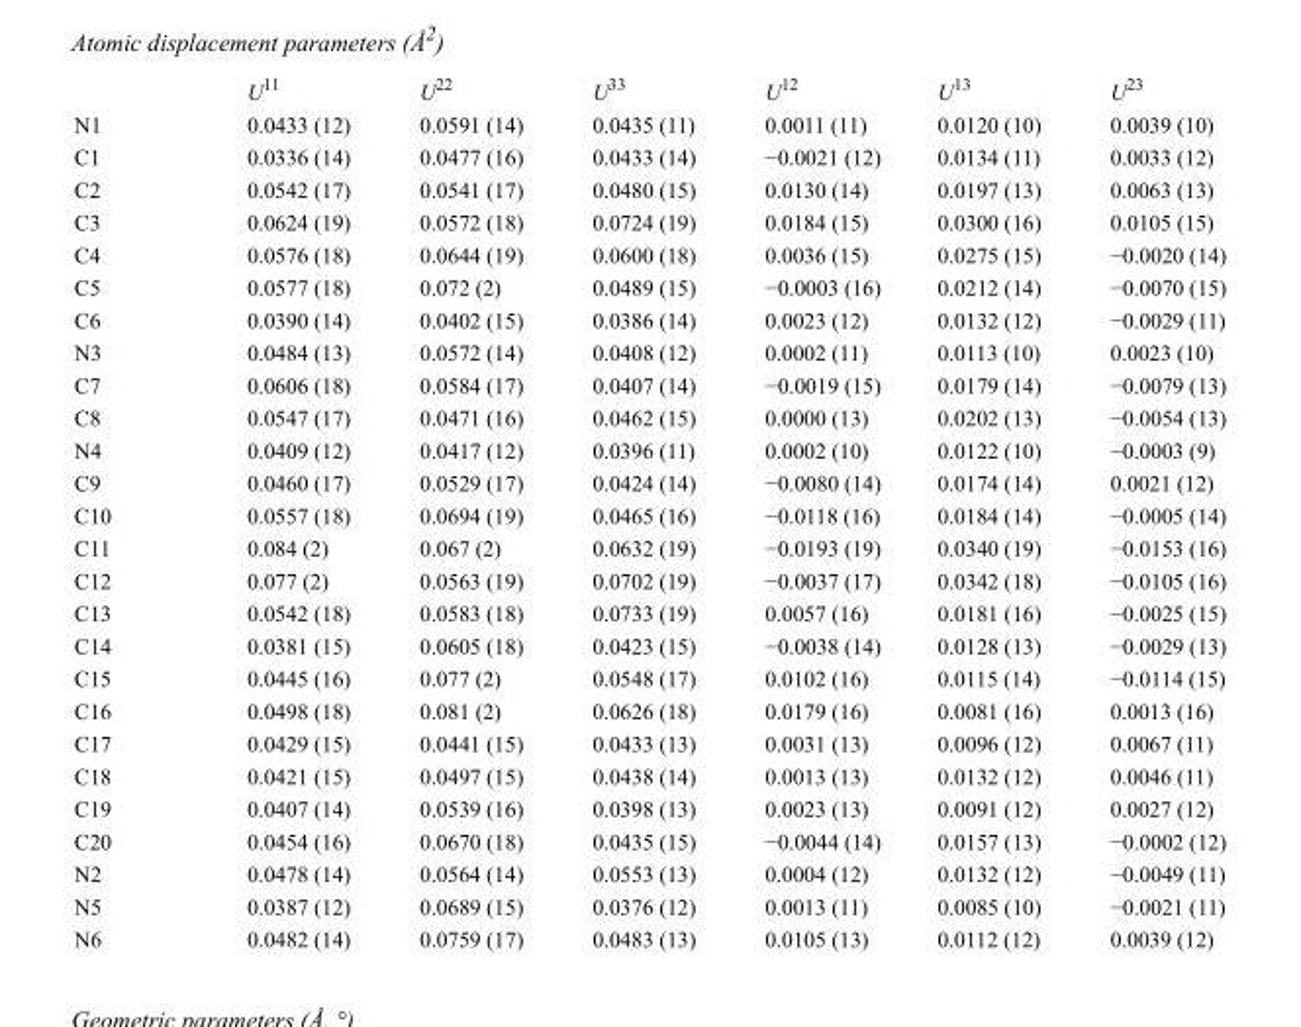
<table><thead><tr><td></td><td>U<sup>11</sup></td><td>U<sup>22</sup></td><td>U<sup>33</sup></td><td>U<sup>12</sup></td><td>U<sup>13</sup></td><td>U<sup>23</sup></td></tr></thead><tbody><tr><td>N1</td><td>0.0433 (12)</td><td>0.0591 (14)</td><td>0.0435 (11)</td><td>0.0011 (11)</td><td>0.0120 (10)</td><td>0.0039 (10)</td></tr><tr><td>C1</td><td>0.0336 (14)</td><td>0.0477 (16)</td><td>0.0433 (14)</td><td>−0.0021 (12)</td><td>0.0134 (11)</td><td>0.0033 (12)</td></tr><tr><td>C2</td><td>0.0542 (17)</td><td>0.0541 (17)</td><td>0.0480 (15)</td><td>0.0130 (14)</td><td>0.0197 (13)</td><td>0.0063 (13)</td></tr><tr><td>C3</td><td>0.0624 (19)</td><td>0.0572 (18)</td><td>0.0724 (19)</td><td>0.0184 (15)</td><td>0.0300 (16)</td><td>0.0105 (15)</td></tr><tr><td>C4</td><td>0.0576 (18)</td><td>0.0644 (19)</td><td>0.0600 (18)</td><td>0.0036 (15)</td><td>0.0275 (15)</td><td>−0.0020 (14)</td></tr><tr><td>C5</td><td>0.0577 (18)</td><td>0.072 (2)</td><td>0.0489 (15)</td><td>−0.0003 (16)</td><td>0.0212 (14)</td><td>−0.0070 (15)</td></tr><tr><td>C6</td><td>0.0390 (14)</td><td>0.0402 (15)</td><td>0.0386 (14)</td><td>0.0023 (12)</td><td>0.0132 (12)</td><td>−0.0029 (11)</td></tr><tr><td>N3</td><td>0.0484 (13)</td><td>0.0572 (14)</td><td>0.0408 (12)</td><td>0.0002 (11)</td><td>0.0113 (10)</td><td>0.0023 (10)</td></tr><tr><td>C7</td><td>0.0606 (18)</td><td>0.0584 (17)</td><td>0.0407 (14)</td><td>−0.0019 (15)</td><td>0.0179 (14)</td><td>−0.0079 (13)</td></tr><tr><td>C8</td><td>0.0547 (17)</td><td>0.0471 (16)</td><td>0.0462 (15)</td><td>0.0000 (13)</td><td>0.0202 (13)</td><td>−0.0054 (13)</td></tr><tr><td>N4</td><td>0.0409 (12)</td><td>0.0417 (12)</td><td>0.0396 (11)</td><td>0.0002 (10)</td><td>0.0122 (10)</td><td>−0.0003 (9)</td></tr><tr><td>C9</td><td>0.0460 (17)</td><td>0.0529 (17)</td><td>0.0424 (14)</td><td>−0.0080 (14)</td><td>0.0174 (14)</td><td>0.0021 (12)</td></tr><tr><td>C10</td><td>0.0557 (18)</td><td>0.0694 (19)</td><td>0.0465 (16)</td><td>−0.0118 (16)</td><td>0.0184 (14)</td><td>−0.0005 (14)</td></tr><tr><td>C11</td><td>0.084 (2)</td><td>0.067 (2)</td><td>0.0632 (19)</td><td>−0.0193 (19)</td><td>0.0340 (19)</td><td>−0.0153 (16)</td></tr><tr><td>C12</td><td>0.077 (2)</td><td>0.0563 (19)</td><td>0.0702 (19)</td><td>−0.0037 (17)</td><td>0.0342 (18)</td><td>−0.0105 (16)</td></tr><tr><td>C13</td><td>0.0542 (18)</td><td>0.0583 (18)</td><td>0.0733 (19)</td><td>0.0057 (16)</td><td>0.0181 (16)</td><td>−0.0025 (15)</td></tr><tr><td>C14</td><td>0.0381 (15)</td><td>0.0605 (18)</td><td>0.0423 (15)</td><td>−0.0038 (14)</td><td>0.0128 (13)</td><td>−0.0029 (13)</td></tr><tr><td>C15</td><td>0.0445 (16)</td><td>0.077 (2)</td><td>0.0548 (17)</td><td>0.0102 (16)</td><td>0.0115 (14)</td><td>−0.0114 (15)</td></tr><tr><td>C16</td><td>0.0498 (18)</td><td>0.081 (2)</td><td>0.0626 (18)</td><td>0.0179 (16)</td><td>0.0081 (16)</td><td>0.0013 (16)</td></tr><tr><td>C17</td><td>0.0429 (15)</td><td>0.0441 (15)</td><td>0.0433 (13)</td><td>0.0031 (13)</td><td>0.0096 (12)</td><td>0.0067 (11)</td></tr><tr><td>C18</td><td>0.0421 (15)</td><td>0.0497 (15)</td><td>0.0438 (14)</td><td>0.0013 (13)</td><td>0.0132 (12)</td><td>0.0046 (11)</td></tr><tr><td>C19</td><td>0.0407 (14)</td><td>0.0539 (16)</td><td>0.0398 (13)</td><td>0.0023 (13)</td><td>0.0091 (12)</td><td>0.0027 (12)</td></tr><tr><td>C20</td><td>0.0454 (16)</td><td>0.0670 (18)</td><td>0.0435 (15)</td><td>−0.0044 (14)</td><td>0.0157 (13)</td><td>−0.0002 (12)</td></tr><tr><td>N2</td><td>0.0478 (14)</td><td>0.0564 (14)</td><td>0.0553 (13)</td><td>0.0004 (12)</td><td>0.0132 (12)</td><td>−0.0049 (11)</td></tr><tr><td>N5</td><td>0.0387 (12)</td><td>0.0689 (15)</td><td>0.0376 (12)</td><td>0.0013 (11)</td><td>0.0085 (10)</td><td>−0.0021 (11)</td></tr><tr><td>N6</td><td>0.0482 (14)</td><td>0.0759 (17)</td><td>0.0483 (13)</td><td>0.0105 (13)</td><td>0.0112 (12)</td><td>0.0039 (12)</td></tr></tbody></table>